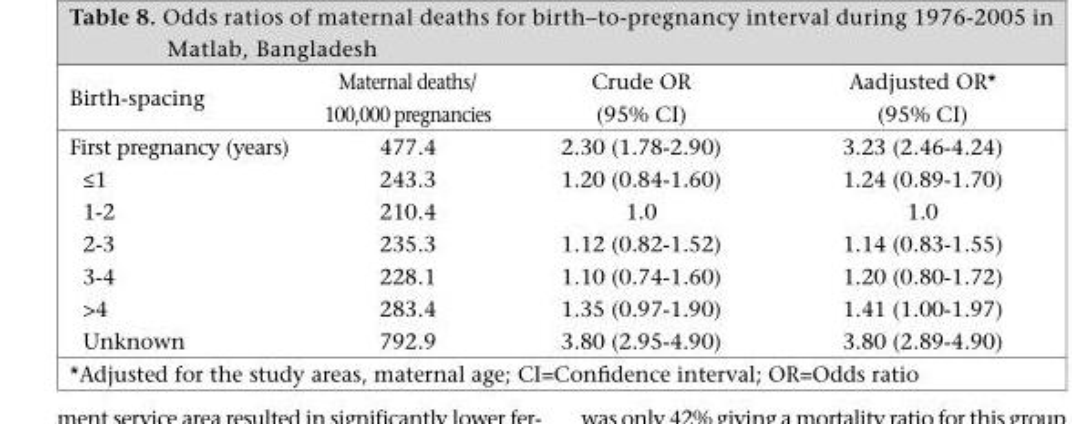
<table><thead><tr><td>Birth-spacing</td><td>Maternal deaths/ 100,000 pregnancies</td><td>Crude OR (95% CI)</td><td>Aadjusted OR* (95% CI)</td></tr></thead><tbody><tr><td>First pregnancy (years)</td><td>477.4</td><td>2.30 (1.78-2.90)</td><td>3.23 (2.46-4.24)</td></tr><tr><td>≤1</td><td>243.3</td><td>1.20 (0.84-1.60)</td><td>1.24 (0.89-1.70)</td></tr><tr><td>1-2</td><td>210.4</td><td>1.0</td><td>1.0</td></tr><tr><td>2-3</td><td>235.3</td><td>1.12 (0.82-1.52)</td><td>1.14 (0.83-1.55)</td></tr><tr><td>3-4</td><td>228.1</td><td>1.10 (0.74-1.60)</td><td>1.20 (0.80-1.72)</td></tr><tr><td>&gt;4</td><td>283.4</td><td>1.35 (0.97-1.90)</td><td>1.41 (1.00-1.97)</td></tr><tr><td>Unknown</td><td>792.9</td><td>3.80 (2.95-4.90)</td><td>3.80 (2.89-4.90)</td></tr></tbody></table>